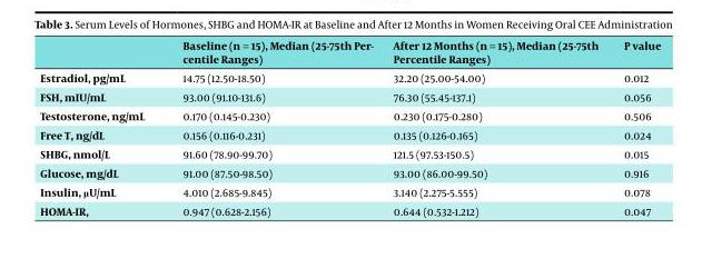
<table><thead><tr><td></td><td>Baseline (n = 15), Median (25-75th Per- centile Ranges)</td><td>After 12 Months (n = 15), Median (25-75th Percentile Ranges)</td><td>P value</td></tr></thead><tbody><tr><td>Estradiol, pg/mL</td><td>14.75 (12.50-18.50)</td><td>32.20 (25.00-54.00)</td><td>0.012</td></tr><tr><td>FSH, mIU/mL</td><td>93.00 (91.10-131.6)</td><td>76.30 (55.45-137.1)</td><td>0.056</td></tr><tr><td>Testosterone, ng/mL</td><td>0.170 (0.145-0.230)</td><td>0.230 (0.175-0.280)</td><td>0.506</td></tr><tr><td>Free T, ng/dL</td><td>0.156 (0.116-0.231)</td><td>0.135 (0.126-0.165)</td><td>0.024</td></tr><tr><td>SHBG, nmol/L</td><td>91.60 (78.90-99.70)</td><td>121.5 (97.53-150.5)</td><td>0.015</td></tr><tr><td>Glucose, mg/dL</td><td>91.00 (87.50-98.50)</td><td>93.00 (86.00-99.50)</td><td>0.916</td></tr><tr><td>Insulin, μU/mL</td><td>4.010 (2.685-9.845)</td><td>3.140 (2.275-5.555)</td><td>0.078</td></tr><tr><td>HOMA-IR,</td><td>0.947 (0.628-2.156)</td><td>0.644 (0.532-1.212)</td><td>0.047</td></tr></tbody></table>